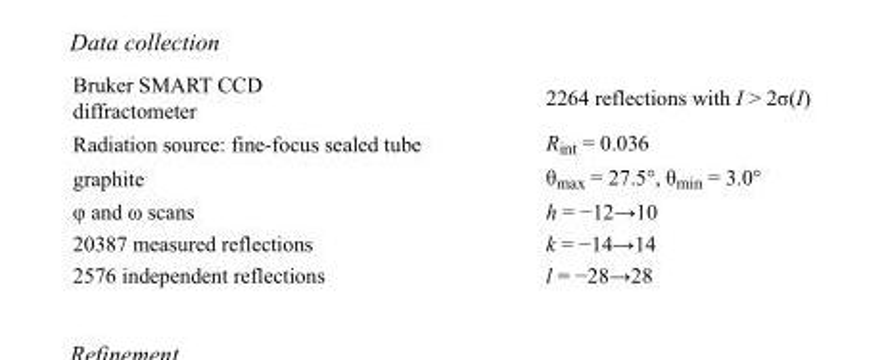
<table><tbody><tr><td>Bruker SMART CCD diffractometer</td><td>2264 reflections with I &gt; 2σ(I)</td></tr><tr><td>Radiation source: fine-focus sealed tube</td><td>R<sub>int</sub> = 0.036</td></tr><tr><td>graphite</td><td>θ<sub>max</sub> = 27.5°, θ<sub>min</sub> = 3.0°</td></tr><tr><td>φ and ω scans</td><td>h = −12→10</td></tr><tr><td>20387 measured reflections</td><td>k = −14→14</td></tr><tr><td>2576 independent reflections</td><td>l = −28→28</td></tr></tbody></table>